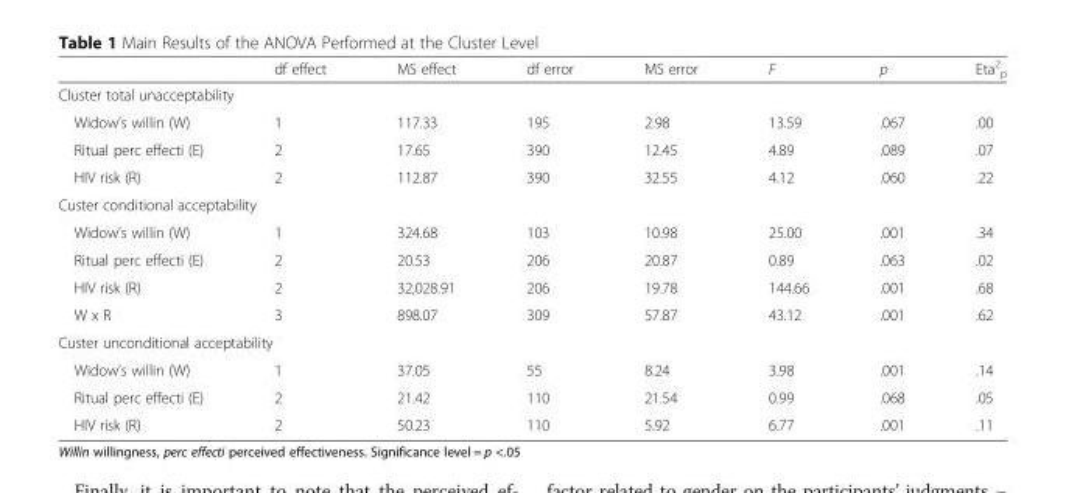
<table><thead><tr><td></td><td>df effect</td><td>MS effect</td><td>df error</td><td>MS error</td><td>F</td><td>p</td><td>Eta<sup>2</sup> <sub>p</sub></td></tr></thead><tbody><tr><td colspan="8">Cluster total unacceptability</td></tr><tr><td>Widow’s willin (W)</td><td>1</td><td>117.33</td><td>195</td><td>2.98</td><td>13.59</td><td>.067</td><td>.00</td></tr><tr><td>Ritual perc effecti (E)</td><td>2</td><td>17.65</td><td>390</td><td>12.45</td><td>4.89</td><td>.089</td><td>.07</td></tr><tr><td>HIV risk (R)</td><td>2</td><td>112.87</td><td>390</td><td>32.55</td><td>4.12</td><td>.060</td><td>.22</td></tr><tr><td colspan="8">Custer conditional acceptability</td></tr><tr><td>Widow’s willin (W)</td><td>1</td><td>324.68</td><td>103</td><td>10.98</td><td>25.00</td><td>.001</td><td>.34</td></tr><tr><td>Ritual perc effecti (E)</td><td>2</td><td>20.53</td><td>206</td><td>20.87</td><td>0.89</td><td>.063</td><td>.02</td></tr><tr><td>HIV risk (R)</td><td>2</td><td>32,028.91</td><td>206</td><td>19.78</td><td>144.66</td><td>.001</td><td>.68</td></tr><tr><td>W x R</td><td>3</td><td>898.07</td><td>309</td><td>57.87</td><td>43.12</td><td>.001</td><td>.62</td></tr><tr><td colspan="8">Custer unconditional acceptability</td></tr><tr><td>Widow’s willin (W)</td><td>1</td><td>37.05</td><td>55</td><td>8.24</td><td>3.98</td><td>.001</td><td>.14</td></tr><tr><td>Ritual perc effecti (E)</td><td>2</td><td>21.42</td><td>110</td><td>21.54</td><td>0.99</td><td>.068</td><td>.05</td></tr><tr><td>HIV risk (R)</td><td>2</td><td>50.23</td><td>110</td><td>5.92</td><td>6.77</td><td>.001</td><td>.11</td></tr></tbody></table>